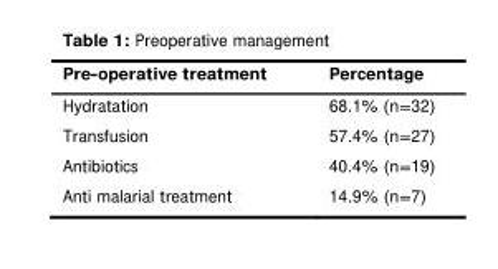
<table><thead><tr><td>Pre-operative treatment</td><td>Percentage</td></tr></thead><tbody><tr><td>Hydratation</td><td>68.1% (n=32)</td></tr><tr><td>Transfusion</td><td>57.4% (n=27)</td></tr><tr><td>Antibiotics</td><td>40.4% (n=19)</td></tr><tr><td>Anti malarial treatment</td><td>14.9% (n=7)</td></tr></tbody></table>